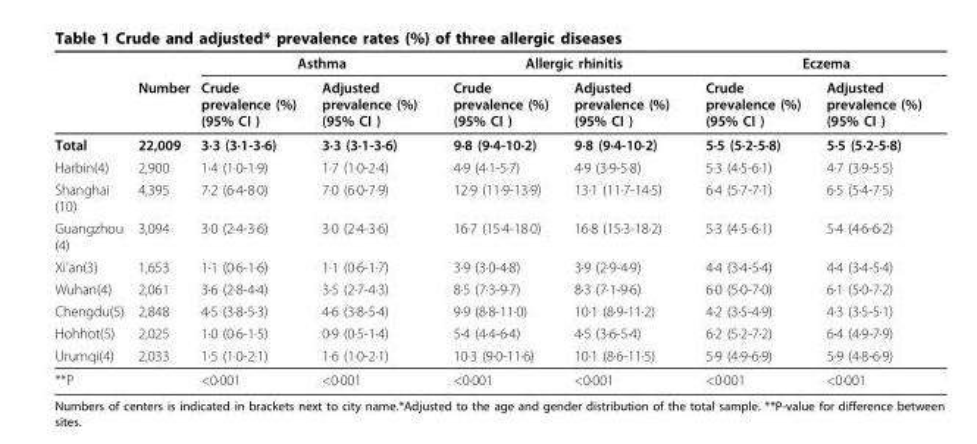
<table><thead><tr><td rowspan="2"></td><td rowspan="2">Number</td><td colspan="2">Asthma</td><td colspan="2">Allergic rhinitis</td><td colspan="2">Eczema</td></tr><tr><td>Crude prevalence (%) (95% CI )</td><td>Adjusted prevalence (%) (95% CI )</td><td>Crude prevalence (%) (95% CI )</td><td>Adjusted prevalence (%) (95% CI )</td><td>Crude prevalence (%) (95% CI )</td><td>Adjusted prevalence (%) (95% CI )</td></tr></thead><tbody><tr><td>Total</td><td>22,009</td><td>3∙3 (3∙1-3∙6)</td><td>3∙3 (3∙1-3∙6)</td><td>9∙8 (9∙4-10∙2)</td><td>9∙8 (9∙4-10∙2)</td><td>5∙5 (5∙2-5∙8)</td><td>5∙5 (5∙2-5∙8)</td></tr><tr><td>Harbin(4)</td><td>2,900</td><td>1∙4 (1∙0-1∙9)</td><td>1∙7 (1∙0-2∙4)</td><td>4∙9 (4∙1-5∙7)</td><td>4∙9 (3∙9-5∙8)</td><td>5∙3 (4∙5-6∙1)</td><td>4∙7 (3∙9-5∙5)</td></tr><tr><td>Shanghai (10)</td><td>4,395</td><td>7∙2 (6∙4-8∙0)</td><td>7∙0 (6∙0-7∙9)</td><td>12∙9 (11∙9-13∙9)</td><td>13∙1 (11∙7-14∙5)</td><td>6∙4 (5∙7-7∙1)</td><td>6∙5 (5∙4-7∙5)</td></tr><tr><td>Guangzhou (4)</td><td>3,094</td><td>3∙0 (2∙4-3∙6)</td><td>3∙0 (2∙4-3∙6)</td><td>16∙7 (15∙4-18∙0)</td><td>16∙8 (15∙3-18∙2)</td><td>5∙3 (4∙5-6∙1)</td><td>5∙4 (4∙6-6∙2)</td></tr><tr><td>Xi’an(3)</td><td>1,653</td><td>1∙1 (0∙6-1∙6)</td><td>1∙1 (0∙6-1∙7)</td><td>3∙9 (3∙0-4∙8)</td><td>3∙9 (2∙9-4∙9)</td><td>4∙4 (3∙4-5∙4)</td><td>4∙4 (3∙4-5∙4)</td></tr><tr><td>Wuhan(4)</td><td>2,061</td><td>3∙6 (2∙8-4∙4)</td><td>3∙5 (2∙7-4∙3)</td><td>8∙5 (7∙3-9∙7)</td><td>8∙3 (7∙1-9∙6)</td><td>6∙0 (5∙0-7∙0)</td><td>6∙1 (5∙0-7∙2)</td></tr><tr><td>Chengdu(5)</td><td>2,848</td><td>4∙5 (3∙8-5∙3)</td><td>4∙6 (3∙8-5∙4)</td><td>9∙9 (8∙8-11∙0)</td><td>10∙1 (8∙9-11∙2)</td><td>4∙2 (3∙5-4∙9)</td><td>4∙3 (3∙5-5∙1)</td></tr><tr><td>Hohhot(5)</td><td>2,025</td><td>1∙0 (0∙6-1∙5)</td><td>0∙9 (0∙5-1∙4)</td><td>5∙4 (4∙4-6∙4)</td><td>4∙5 (3∙6-5∙4)</td><td>6∙2 (5∙2-7∙2)</td><td>6∙4 (4∙9-7∙9)</td></tr><tr><td>Urumqi(4)</td><td>2,033</td><td>1∙5 (1∙0-2∙1)</td><td>1∙6 (1∙0-2∙1)</td><td>10∙3 (9∙0-11∙6)</td><td>10∙1 (8∙6-11∙5)</td><td>5∙9 (4∙9-6∙9)</td><td>5∙9 (4∙8-6∙9)</td></tr><tr><td>**P</td><td></td><td>&lt;0∙001</td><td>&lt;0∙001</td><td>&lt;0∙001</td><td>&lt;0∙001</td><td>&lt;0∙001</td><td>&lt;0∙001</td></tr></tbody></table>